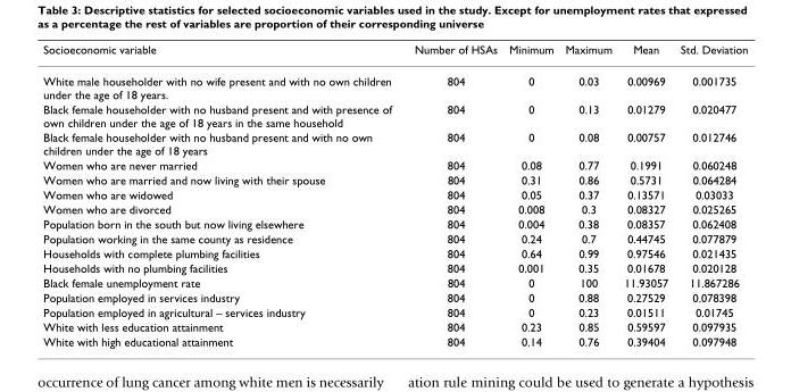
<table><thead><tr><td>Socioeconomic variable</td><td>Number of HSAs</td><td>Minimum</td><td>Maximum</td><td>Mean</td><td>Std. Deviation</td></tr></thead><tbody><tr><td>White male householder with no wife present and with no own children under the age of 18 years.</td><td>804</td><td>0</td><td>0.03</td><td>0.00969</td><td>0.001735</td></tr><tr><td>Black female householder with no husband present and with presence of own children under the age of 18 years in the same household</td><td>804</td><td>0</td><td>0.13</td><td>0.01279</td><td>0.020477</td></tr><tr><td>Black female householder with no husband present and with no own children under the age of 18 years</td><td>804</td><td>0</td><td>0.08</td><td>0.00757</td><td>0.012746</td></tr><tr><td>Women who are never married</td><td>804</td><td>0.08</td><td>0.77</td><td>0.1991</td><td>0.060248</td></tr><tr><td>Women who are married and now living with their spouse</td><td>804</td><td>0.31</td><td>0.86</td><td>0.5731</td><td>0.064284</td></tr><tr><td>Women who are widowed</td><td>804</td><td>0.05</td><td>0.37</td><td>0.13571</td><td>0.03033</td></tr><tr><td>Women who are divorced</td><td>804</td><td>0.008</td><td>0.3</td><td>0.08327</td><td>0.025265</td></tr><tr><td>Population born in the south but now living elsewhere</td><td>804</td><td>0.004</td><td>0.38</td><td>0.08357</td><td>0.062408</td></tr><tr><td>Population working in the same county as residence</td><td>804</td><td>0.24</td><td>0.7</td><td>0.44745</td><td>0.077879</td></tr><tr><td>Households with complete plumbing facilities</td><td>804</td><td>0.64</td><td>0.99</td><td>0.97546</td><td>0.021435</td></tr><tr><td>Households with no plumbing facilities</td><td>804</td><td>0.001</td><td>0.35</td><td>0.01678</td><td>0.020128</td></tr><tr><td>Black female unemployment rate</td><td>804</td><td>0</td><td>100</td><td>11.93057</td><td>11.867286</td></tr><tr><td>Population employed in services industry</td><td>804</td><td>0</td><td>0.88</td><td>0.27529</td><td>0.078398</td></tr><tr><td>Population employed in agricultural – services industry</td><td>804</td><td>0</td><td>0.23</td><td>0.01511</td><td>0.01745</td></tr><tr><td>White with less education attainment</td><td>804</td><td>0.23</td><td>0.85</td><td>0.59597</td><td>0.097935</td></tr><tr><td>White with high educational attainment</td><td>804</td><td>0.14</td><td>0.76</td><td>0.39404</td><td>0.097948</td></tr></tbody></table>